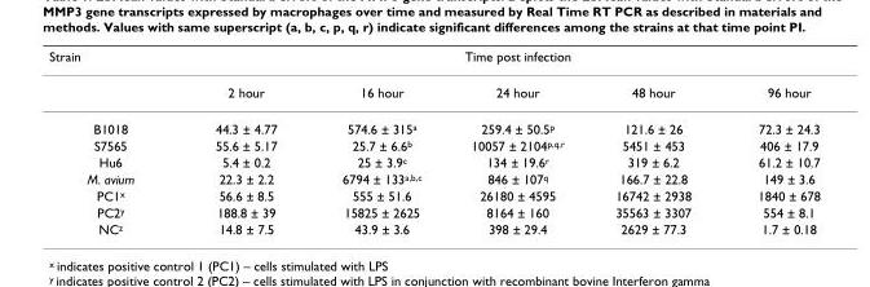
<table><thead><tr><td rowspan="2">Strain</td><td colspan="5">Time post infection</td></tr><tr><td>2 hour</td><td>16 hour</td><td>24 hour</td><td>48 hour</td><td>96 hour</td></tr></thead><tbody><tr><td>B1018</td><td>44.3 ± 4.77</td><td>574.6 ± 315a</td><td>259.4 ± 50.5p</td><td>121.6 ± 26</td><td>72.3 ± 24.3</td></tr><tr><td>S7565</td><td>55.6 ± 5.17</td><td>25.7 ± 6.6b</td><td>10057 ± 2104p,q,r</td><td>5451 ± 453</td><td>406 ± 17.9</td></tr><tr><td>Hu6</td><td>5.4 ± 0.2</td><td>25 ± 3.9c</td><td>134 ± 19.6r</td><td>319 ± 6.2</td><td>61.2 ± 10.7</td></tr><tr><td>M. avium</td><td>22.3 ± 2.2</td><td>6794 ± 133a,b,c</td><td>846 ± 107q</td><td>166.7 ± 22.8</td><td>149 ± 3.6</td></tr><tr><td>PC1x</td><td>56.6 ± 8.5</td><td>555 ± 51.6</td><td>26180 ± 4595</td><td>16742 ± 2938</td><td>1840 ± 678</td></tr><tr><td>PC2y</td><td>188.8 ± 39</td><td>15825 ± 2625</td><td>8164 ± 160</td><td>35563 ± 3307</td><td>554 ± 8.1</td></tr><tr><td>NCz</td><td>14.8 ± 7.5</td><td>43.9 ± 3.6</td><td>398 ± 29.4</td><td>2629 ± 77.3</td><td>1.7 ± 0.18</td></tr></tbody></table>